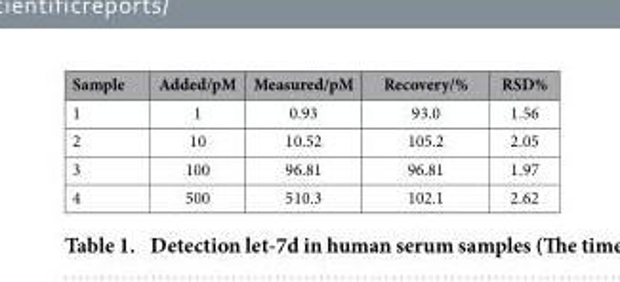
<table><thead><tr><td>Sample</td><td>Added/pM</td><td>Measured/pM</td><td>Recovery/%</td><td>RSD%</td></tr></thead><tbody><tr><td>1</td><td>1</td><td>0.93</td><td>93.0</td><td>1.56</td></tr><tr><td>2</td><td>10</td><td>10.52</td><td>105.2</td><td>2.05</td></tr><tr><td>3</td><td>100</td><td>96.81</td><td>96.81</td><td>1.97</td></tr><tr><td>4</td><td>500</td><td>510.3</td><td>102.1</td><td>2.62</td></tr></tbody></table>